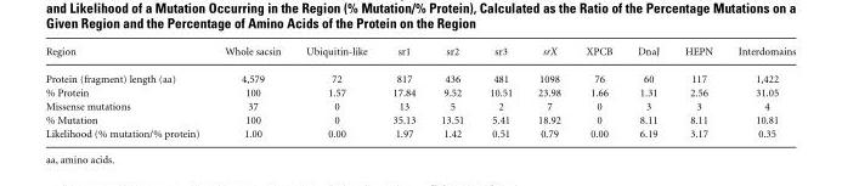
<table><thead><tr><td>Region</td><td>Whole sacsin</td><td>Ubiquitin-like</td><td>sr1</td><td>sr2</td><td>sr3</td><td>srX</td><td>XPCB</td><td>DnaJ</td><td>HEPN</td><td>Interdomains</td></tr></thead><tbody><tr><td>Protein (fragment) length (aa)</td><td>4,579</td><td>72</td><td>817</td><td>436</td><td>481</td><td>1098</td><td>76</td><td>60</td><td>117</td><td>1,422</td></tr><tr><td>% Protein</td><td>100</td><td>1.57</td><td>17.84</td><td>9.52</td><td>10.51</td><td>23.98</td><td>1.66</td><td>1.31</td><td>2.56</td><td>31.05</td></tr><tr><td>Missense mutations</td><td>37</td><td>0</td><td>13</td><td>5</td><td>2</td><td>7</td><td>0</td><td>3</td><td>3</td><td>4</td></tr><tr><td>% Mutation</td><td>100</td><td>0</td><td>35.13</td><td>13.51</td><td>5.41</td><td>18.92</td><td>0</td><td>8.11</td><td>8.11</td><td>10.81</td></tr><tr><td>Likelihood (% mutation/% protein)</td><td>1.00</td><td>0.00</td><td>1.97</td><td>1.42</td><td>0.51</td><td>0.79</td><td>0.00</td><td>6.19</td><td>3.17</td><td>0.35</td></tr></tbody></table>